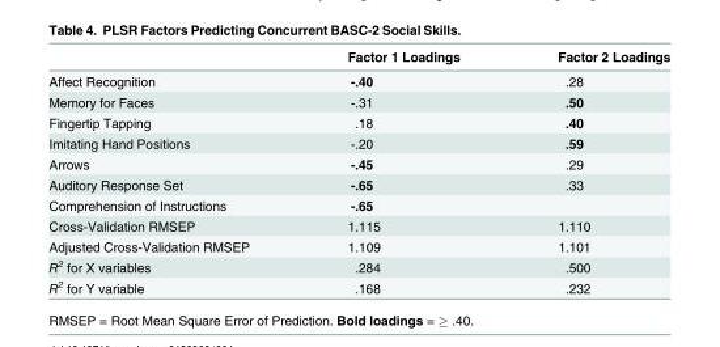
<table><thead><tr><td></td><td>Factor 1 Loadings</td><td>Factor 2 Loadings</td></tr></thead><tbody><tr><td>Affect Recognition</td><td>-.40</td><td>.28</td></tr><tr><td>Memory for Faces</td><td>-.31</td><td>.50</td></tr><tr><td>Fingertip Tapping</td><td>.18</td><td>.40</td></tr><tr><td>Imitating Hand Positions</td><td>-.20</td><td>.59</td></tr><tr><td>Arrows</td><td>-.45</td><td>.29</td></tr><tr><td>Auditory Response Set</td><td>-.65</td><td>.33</td></tr><tr><td>Comprehension of Instructions</td><td>-.65</td><td></td></tr><tr><td>Cross-Validation RMSEP</td><td>1.115</td><td>1.110</td></tr><tr><td>Adjusted Cross-Validation RMSEP</td><td>1.109</td><td>1.101</td></tr><tr><td>R<sup>2</sup> for X variables</td><td>.284</td><td>.500</td></tr><tr><td>R<sup>2</sup> for Y variable</td><td>.168</td><td>.232</td></tr></tbody></table>